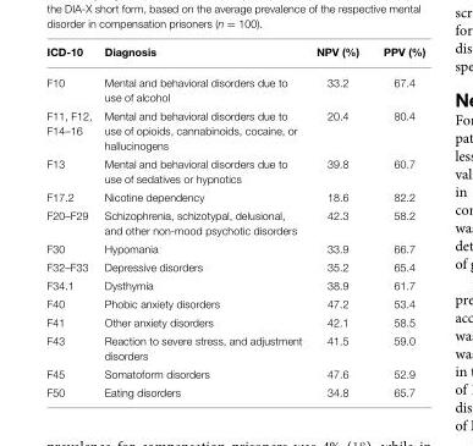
<table><thead><tr><td>ICD-10</td><td>Diagnosis</td><td>NPV (%)</td><td>PPV (%)</td></tr></thead><tbody><tr><td>F10</td><td>Mental and behavioral disorders due to use of alcohol</td><td>33.2</td><td>67.4</td></tr><tr><td>F11, F12, F14–16</td><td>Mental and behavioral disorders due to use of opioids, cannabinoids, cocaine, or hallucinogens</td><td>20.4</td><td>80.4</td></tr><tr><td>F13</td><td>Mental and behavioral disorders due to use of sedatives or hypnotics</td><td>39.8</td><td>60.7</td></tr><tr><td>F17.2</td><td>Nicotine dependency</td><td>18.6</td><td>82.2</td></tr><tr><td>F20–F29</td><td>Schizophrenia, schizotypal, delusional, and other non-mood psychotic disorders</td><td>42.3</td><td>58.2</td></tr><tr><td>F30</td><td>Hypomania</td><td>33.9</td><td>66.7</td></tr><tr><td>F32–F33</td><td>Depressive disorders</td><td>35.2</td><td>65.4</td></tr><tr><td>F34.1</td><td>Dysthymia</td><td>38.9</td><td>61.7</td></tr><tr><td>F40</td><td>Phobic anxiety disorders</td><td>47.2</td><td>53.4</td></tr><tr><td>F41</td><td>Other anxiety disorders</td><td>42.1</td><td>58.5</td></tr><tr><td>F43</td><td>Reaction to severe stress, and adjustment disorders</td><td>41.5</td><td>59.0</td></tr><tr><td>F45</td><td>Somatoform disorders</td><td>47.6</td><td>52.9</td></tr><tr><td>F50</td><td>Eating disorders</td><td>34.8</td><td>65.7</td></tr></tbody></table>